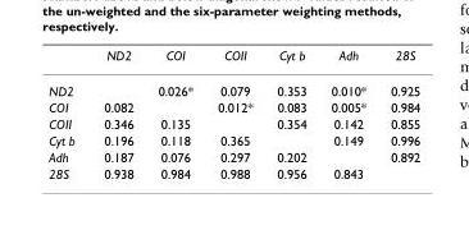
<table><thead><tr><td></td><td>ND2</td><td>COI</td><td>COII</td><td>Cyt b</td><td>Adh</td><td>28S</td></tr></thead><tbody><tr><td>ND2</td><td></td><td>0.026*</td><td>0.079</td><td>0.353</td><td>0.010*</td><td>0.925</td></tr><tr><td>COI</td><td>0.082</td><td></td><td>0.012*</td><td>0.083</td><td>0.005*</td><td>0.984</td></tr><tr><td>COII</td><td>0.346</td><td>0.135</td><td></td><td>0.354</td><td>0.142</td><td>0.855</td></tr><tr><td>Cyt b</td><td>0.196</td><td>0.118</td><td>0.365</td><td></td><td>0.149</td><td>0.996</td></tr><tr><td>Adh</td><td>0.187</td><td>0.076</td><td>0.297</td><td>0.202</td><td></td><td>0.892</td></tr><tr><td>28S</td><td>0.938</td><td>0.984</td><td>0.988</td><td>0.956</td><td>0.843</td><td></td></tr></tbody></table>